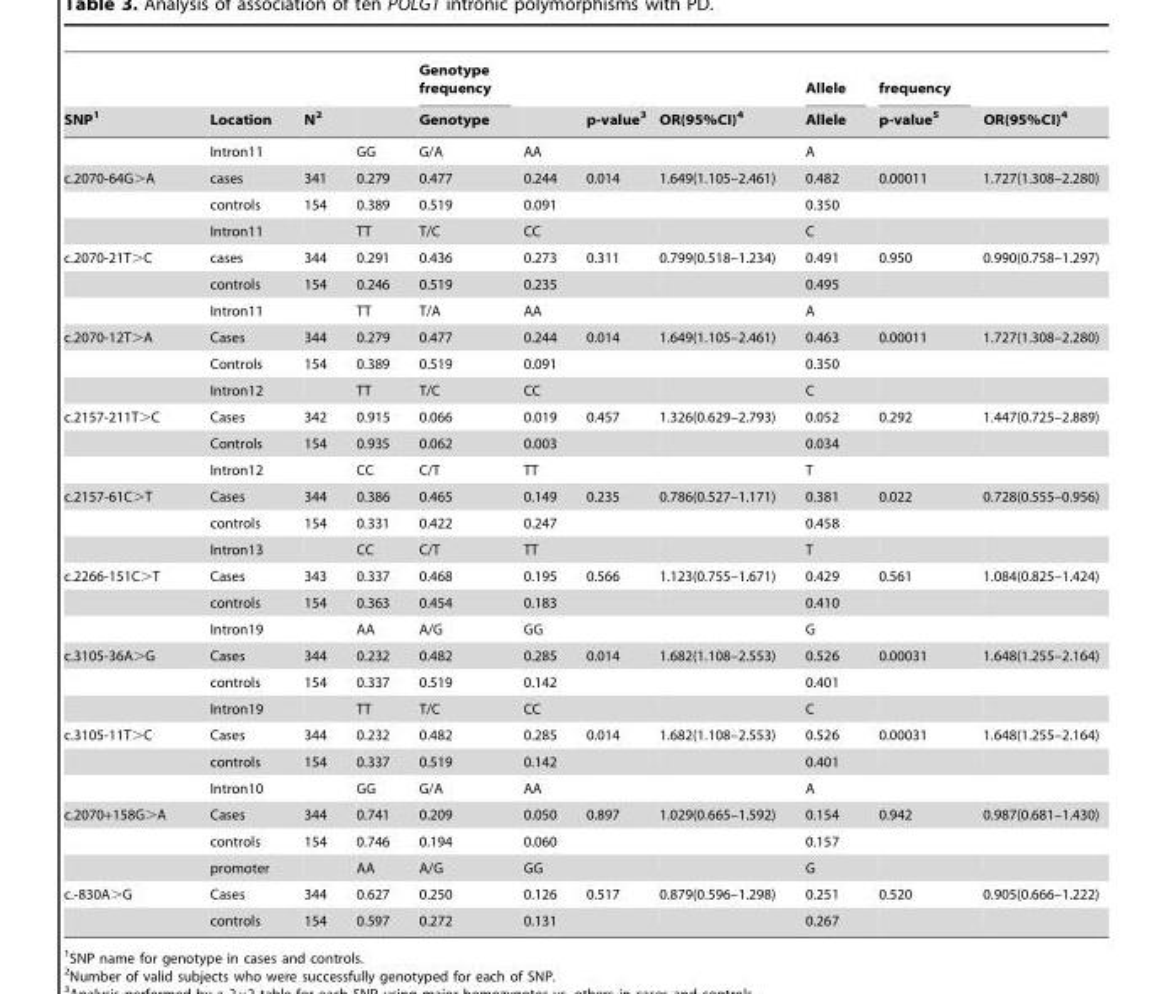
<table><thead><tr><td rowspan="2">SNP<sup>1</sup></td><td rowspan="2">Location</td><td rowspan="2">N<sup>2</sup></td><td rowspan="2"></td><td rowspan="2">Genotype frequency Genotype</td><td rowspan="2"></td><td rowspan="2">p-value<sup>3</sup></td><td rowspan="2">OR(95%CI)<sup>4</sup></td><td rowspan="2">Allele Allele</td><td rowspan="2">frequency p-value<sup>5</sup></td><td rowspan="2">OR(95%CI)<sup>4</sup></td></tr><tr></tr></thead><tbody><tr><td></td><td>Intron11</td><td></td><td>GG</td><td>G/A</td><td>AA</td><td></td><td></td><td>A</td><td></td><td></td></tr><tr><td rowspan="3">c.2070-64G&gt;A</td><td>cases</td><td>341</td><td>0.279</td><td>0.477</td><td>0.244</td><td>0.014</td><td>1.649(1.105–2.461)</td><td>0.482</td><td>0.00011</td><td>1.727(1.308–2.280)</td></tr><tr><td>controls</td><td>154</td><td>0.389</td><td>0.519</td><td>0.091</td><td></td><td></td><td>0.350</td><td></td><td></td></tr><tr><td>Intron11</td><td></td><td>TT</td><td>T/C</td><td>CC</td><td></td><td></td><td>C</td><td></td><td></td></tr><tr><td rowspan="3">c.2070-21T&gt;C</td><td>cases</td><td>344</td><td>0.291</td><td>0.436</td><td>0.273</td><td>0.311</td><td>0.799(0.518–1.234)</td><td>0.491</td><td>0.950</td><td>0.990(0.758–1.297)</td></tr><tr><td>controls</td><td>154</td><td>0.246</td><td>0.519</td><td>0.235</td><td></td><td></td><td>0.495</td><td></td><td></td></tr><tr><td>Intron11</td><td></td><td>TT</td><td>T/A</td><td>AA</td><td></td><td></td><td>A</td><td></td><td></td></tr><tr><td rowspan="3">c.2070-12T&gt;A</td><td>Cases</td><td>344</td><td>0.279</td><td>0.477</td><td>0.244</td><td>0.014</td><td>1.649(1.105–2.461)</td><td>0.463</td><td>0.00011</td><td>1.727(1.308–2.280)</td></tr><tr><td>Controls</td><td>154</td><td>0.389</td><td>0.519</td><td>0.091</td><td></td><td></td><td>0.350</td><td></td><td></td></tr><tr><td>Intron12</td><td></td><td>TT</td><td>T/C</td><td>CC</td><td></td><td></td><td>C</td><td></td><td></td></tr><tr><td rowspan="3">c.2157-211T&gt;C</td><td>Cases</td><td>342</td><td>0.915</td><td>0.066</td><td>0.019</td><td>0.457</td><td>1.326(0.629–2.793)</td><td>0.052</td><td>0.292</td><td>1.447(0.725–2.889)</td></tr><tr><td>Controls</td><td>154</td><td>0.935</td><td>0.062</td><td>0.003</td><td></td><td></td><td>0.034</td><td></td><td></td></tr><tr><td>Intron12</td><td></td><td>CC</td><td>C/T</td><td>TT</td><td></td><td></td><td>T</td><td></td><td></td></tr><tr><td rowspan="3">c.2157-61C&gt;T</td><td>Cases</td><td>344</td><td>0.386</td><td>0.465</td><td>0.149</td><td>0.235</td><td>0.786(0.527–1.171)</td><td>0.381</td><td>0.022</td><td>0.728(0.555–0.956)</td></tr><tr><td>controls</td><td>154</td><td>0.331</td><td>0.422</td><td>0.247</td><td></td><td></td><td>0.458</td><td></td><td></td></tr><tr><td>Intron13</td><td></td><td>CC</td><td>C/T</td><td>TT</td><td></td><td></td><td>T</td><td></td><td></td></tr><tr><td rowspan="3">c.2266-151C&gt;T</td><td>Cases</td><td>343</td><td>0.337</td><td>0.468</td><td>0.195</td><td>0.566</td><td>1.123(0.755–1.671)</td><td>0.429</td><td>0.561</td><td>1.084(0.825–1.424)</td></tr><tr><td>controls</td><td>154</td><td>0.363</td><td>0.454</td><td>0.183</td><td></td><td></td><td>0.410</td><td></td><td></td></tr><tr><td>Intron19</td><td></td><td>AA</td><td>A/G</td><td>GG</td><td></td><td></td><td>G</td><td></td><td></td></tr><tr><td rowspan="3">c.3105-36A&gt;G</td><td>Cases</td><td>344</td><td>0.232</td><td>0.482</td><td>0.285</td><td>0.014</td><td>1.682(1.108–2.553)</td><td>0.526</td><td>0.00031</td><td>1.648(1.255–2.164)</td></tr><tr><td>controls</td><td>154</td><td>0.337</td><td>0.519</td><td>0.142</td><td></td><td></td><td>0.401</td><td></td><td></td></tr><tr><td>Intron19</td><td></td><td>TT</td><td>T/C</td><td>CC</td><td></td><td></td><td>C</td><td></td><td></td></tr><tr><td rowspan="3">c.3105-11T&gt;C</td><td>Cases</td><td>344</td><td>0.232</td><td>0.482</td><td>0.285</td><td>0.014</td><td>1.682(1.108–2.553)</td><td>0.526</td><td>0.00031</td><td>1.648(1.255–2.164)</td></tr><tr><td>controls</td><td>154</td><td>0.337</td><td>0.519</td><td>0.142</td><td></td><td></td><td>0.401</td><td></td><td></td></tr><tr><td>Intron10</td><td></td><td>GG</td><td>G/A</td><td>AA</td><td></td><td></td><td>A</td><td></td><td></td></tr><tr><td rowspan="3">c.2070+158G&gt;A</td><td>Cases</td><td>344</td><td>0.741</td><td>0.209</td><td>0.050</td><td>0.897</td><td>1.029(0.665–1.592)</td><td>0.154</td><td>0.942</td><td>0.987(0.681–1.430)</td></tr><tr><td>controls</td><td>154</td><td>0.746</td><td>0.194</td><td>0.060</td><td></td><td></td><td>0.157</td><td></td><td></td></tr><tr><td>promoter</td><td></td><td>AA</td><td>A/G</td><td>GG</td><td></td><td></td><td>G</td><td></td><td></td></tr><tr><td rowspan="2">c.-830A&gt;G</td><td>Cases</td><td>344</td><td>0.627</td><td>0.250</td><td>0.126</td><td>0.517</td><td>0.879(0.596–1.298)</td><td>0.251</td><td>0.520</td><td>0.905(0.666–1.222)</td></tr><tr><td>controls</td><td>154</td><td>0.597</td><td>0.272</td><td>0.131</td><td></td><td></td><td>0.267</td><td></td><td></td></tr></tbody></table>